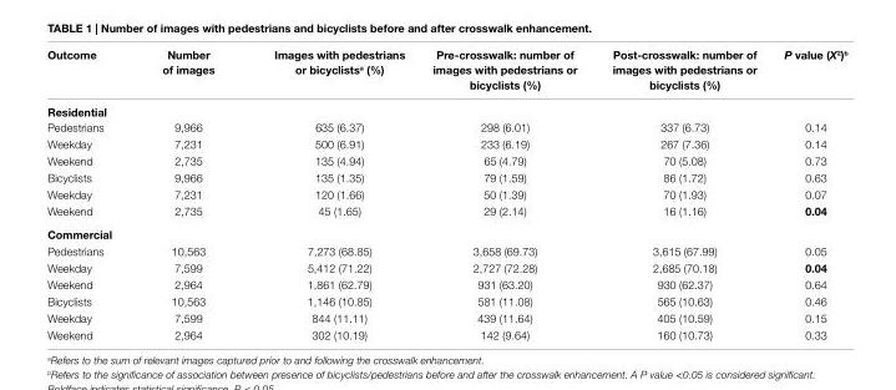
<table><thead><tr><td>outcome</td><td>number of images</td><td>images with pedestrians or bicyclists<sup>a</sup> (%)</td><td>Pre-crosswalk: number of images with pedestrians or bicyclists (%)</td><td>Post-crosswalk: number of images with pedestrians or bicyclists (%)</td><td>P value (X<sup>2</sup>)<sup>b</sup></td></tr></thead><tbody><tr><td colspan="6">residential</td></tr><tr><td>Pedestrians</td><td>9,966</td><td>635 (6.37)</td><td>298 (6.01)</td><td>337 (6.73)</td><td>0.14</td></tr><tr><td>Weekday</td><td>7,231</td><td>500 (6.91)</td><td>233 (6.19)</td><td>267 (7.36)</td><td>0.14</td></tr><tr><td>Weekend</td><td>2,735</td><td>135 (4.94)</td><td>65 (4.79)</td><td>70 (5.08)</td><td>0.73</td></tr><tr><td>Bicyclists</td><td>9,966</td><td>135 (1.35)</td><td>79 (1.59)</td><td>86 (1.72)</td><td>0.63</td></tr><tr><td>Weekday</td><td>7,231</td><td>120 (1.66)</td><td>50 (1.39)</td><td>70 (1.93)</td><td>0.07</td></tr><tr><td>Weekend</td><td>2,735</td><td>45 (1.65)</td><td>29 (2.14)</td><td>16 (1.16)</td><td>0.04</td></tr><tr><td colspan="6">commercial</td></tr><tr><td>Pedestrians</td><td>10,563</td><td>7,273 (68.85)</td><td>3,658 (69.73)</td><td>3,615 (67.99)</td><td>0.05</td></tr><tr><td>Weekday</td><td>7,599</td><td>5,412 (71.22)</td><td>2,727 (72.28)</td><td>2,685 (70.18)</td><td>0.04</td></tr><tr><td>Weekend</td><td>2,964</td><td>1,861 (62.79)</td><td>931 (63.20)</td><td>930 (62.37)</td><td>0.64</td></tr><tr><td>Bicyclists</td><td>10,563</td><td>1,146 (10.85)</td><td>581 (11.08)</td><td>565 (10.63)</td><td>0.46</td></tr><tr><td>Weekday</td><td>7,599</td><td>844 (11.11)</td><td>439 (11.64)</td><td>405 (10.59)</td><td>0.15</td></tr><tr><td>Weekend</td><td>2,964</td><td>302 (10.19)</td><td>142 (9.64)</td><td>160 (10.73)</td><td>0.33</td></tr></tbody></table>